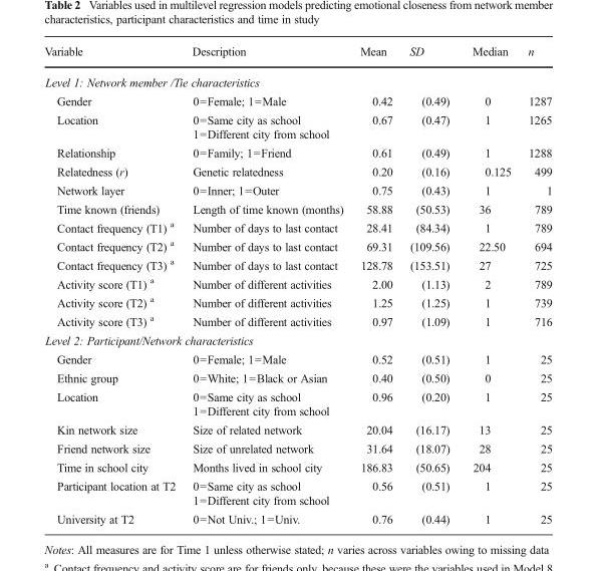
<table><thead><tr><td>Variable</td><td>Description</td><td>Mean</td><td>SD</td><td>Median</td><td>n</td></tr></thead><tbody><tr><td colspan="6">Level 1: Network member /Tie characteristics</td></tr><tr><td>Gender</td><td>0=Female; 1=Male</td><td>0.42</td><td>(0.49)</td><td>0</td><td>1287</td></tr><tr><td>Location</td><td>0=Same city as school 1=Different city from school</td><td>0.67</td><td>(0.47)</td><td>1</td><td>1265</td></tr><tr><td>Relationship</td><td>0=Family; 1=Friend</td><td>0.61</td><td>(0.49)</td><td>1</td><td>1288</td></tr><tr><td>Relatedness (r)</td><td>Genetic relatedness</td><td>0.20</td><td>(0.16)</td><td>0.125</td><td>499</td></tr><tr><td>Network layer</td><td>0=Inner; 1=Outer</td><td>0.75</td><td>(0.43)</td><td>1</td><td>1</td></tr><tr><td>Time known (friends)</td><td>Length of time known (months)</td><td>58.88</td><td>(50.53)</td><td>36</td><td>789</td></tr><tr><td>Contact frequency (T1) <sup>a</sup></td><td>Number of days to last contact</td><td>28.41</td><td>(84.34)</td><td>1</td><td>789</td></tr><tr><td>Contact frequency (T2) <sup>a</sup></td><td>Number of days to last contact</td><td>69.31</td><td>(109.56)</td><td>22.50</td><td>694</td></tr><tr><td>Contact frequency (T3) <sup>a</sup></td><td>Number of days to last contact</td><td>128.78</td><td>(153.51)</td><td>27</td><td>725</td></tr><tr><td>Activity score (T1) <sup>a</sup></td><td>Number of different activities</td><td>2.00</td><td>(1.13)</td><td>2</td><td>789</td></tr><tr><td>Activity score (T2) <sup>a</sup></td><td>Number of different activities</td><td>1.25</td><td>(1.25)</td><td>1</td><td>739</td></tr><tr><td>Activity score (T3) <sup>a</sup></td><td>Number of different activities</td><td>0.97</td><td>(1.09)</td><td>1</td><td>716</td></tr><tr><td colspan="6">Level 2: Participant/Network characteristics</td></tr><tr><td>Gender</td><td>0=Female; 1=Male</td><td>0.52</td><td>(0.51)</td><td>1</td><td>25</td></tr><tr><td>Ethnic group</td><td>0=White; 1=Black or Asian</td><td>0.40</td><td>(0.50)</td><td>0</td><td>25</td></tr><tr><td>Location</td><td>0=Same city as school 1=Different city from school</td><td>0.96</td><td>(0.20)</td><td>1</td><td>25</td></tr><tr><td>Kin network size</td><td>Size of related network</td><td>20.04</td><td>(16.17)</td><td>13</td><td>25</td></tr><tr><td>Friend network size</td><td>Size of unrelated network</td><td>31.64</td><td>(18.07)</td><td>28</td><td>25</td></tr><tr><td>Time in school city</td><td>Months lived in school city</td><td>186.83</td><td>(50.65)</td><td>204</td><td>25</td></tr><tr><td>Participant location at T2</td><td>0=Same city as school 1=Different city from school</td><td>0.56</td><td>(0.51)</td><td>1</td><td>25</td></tr><tr><td>University at T2</td><td>0=Not Univ.; 1=Univ.</td><td>0.76</td><td>(0.44)</td><td>1</td><td>25</td></tr></tbody></table>